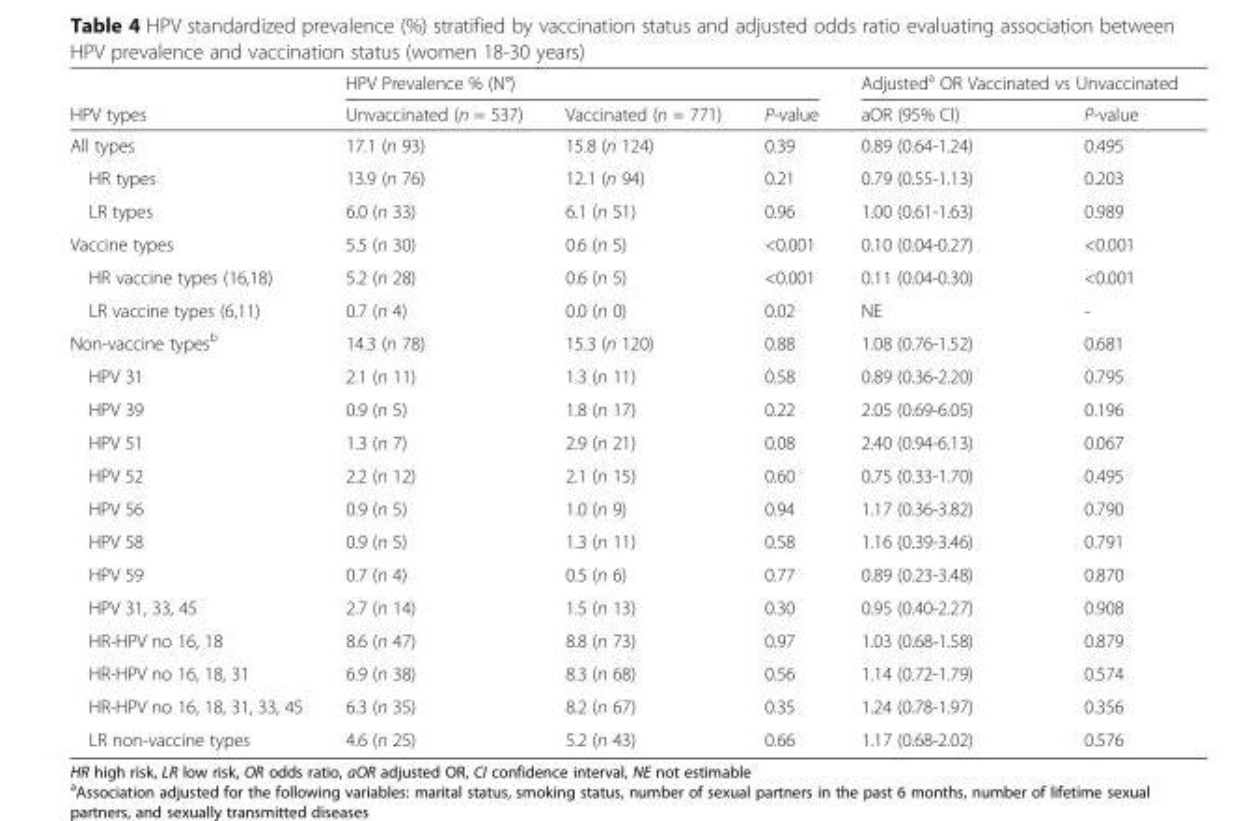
<table><thead><tr><td rowspan="2">HPV types</td><td colspan="3">HPV Prevalence % (N°)</td><td colspan="2">Adjusted<sup>a</sup> OR Vaccinated vs Unvaccinated</td></tr><tr><td>Unvaccinated (n = 537)</td><td>Vaccinated (n = 771)</td><td>P-value</td><td>aOR (95% CI)</td><td>P-value</td></tr></thead><tbody><tr><td>All types</td><td>17.1 (n 93)</td><td>15.8 (n 124)</td><td>0.39</td><td>0.89 (0.64-1.24)</td><td>0.495</td></tr><tr><td>HR types</td><td>13.9 (n 76)</td><td>12.1 (n 94)</td><td>0.21</td><td>0.79 (0.55-1.13)</td><td>0.203</td></tr><tr><td>LR types</td><td>6.0 (n 33)</td><td>6.1 (n 51)</td><td>0.96</td><td>1.00 (0.61-1.63)</td><td>0.989</td></tr><tr><td>Vaccine types</td><td>5.5 (n 30)</td><td>0.6 (n 5)</td><td>&lt;0.001</td><td>0.10 (0.04-0.27)</td><td>&lt;0.001</td></tr><tr><td>HR vaccine types (16,18)</td><td>5.2 (n 28)</td><td>0.6 (n 5)</td><td>&lt;0.001</td><td>0.11 (0.04-0.30)</td><td>&lt;0.001</td></tr><tr><td>LR vaccine types (6,11)</td><td>0.7 (n 4)</td><td>0.0 (n 0)</td><td>0.02</td><td>NE</td><td>-</td></tr><tr><td>Non-vaccine types<sup>b</sup></td><td>14.3 (n 78)</td><td>15.3 (n 120)</td><td>0.88</td><td>1.08 (0.76-1.52)</td><td>0.681</td></tr><tr><td>HPV 31</td><td>2.1 (n 11)</td><td>1.3 (n 11)</td><td>0.58</td><td>0.89 (0.36-2.20)</td><td>0.795</td></tr><tr><td>HPV 39</td><td>0.9 (n 5)</td><td>1.8 (n 17)</td><td>0.22</td><td>2.05 (0.69-6.05)</td><td>0.196</td></tr><tr><td>HPV 51</td><td>1.3 (n 7)</td><td>2.9 (n 21)</td><td>0.08</td><td>2.40 (0.94-6.13)</td><td>0.067</td></tr><tr><td>HPV 52</td><td>2.2 (n 12)</td><td>2.1 (n 15)</td><td>0.60</td><td>0.75 (0.33-1.70)</td><td>0.495</td></tr><tr><td>HPV 56</td><td>0.9 (n 5)</td><td>1.0 (n 9)</td><td>0.94</td><td>1.17 (0.36-3.82)</td><td>0.790</td></tr><tr><td>HPV 58</td><td>0.9 (n 5)</td><td>1.3 (n 11)</td><td>0.58</td><td>1.16 (0.39-3.46)</td><td>0.791</td></tr><tr><td>HPV 59</td><td>0.7 (n 4)</td><td>0.5 (n 6)</td><td>0.77</td><td>0.89 (0.23-3.48)</td><td>0.870</td></tr><tr><td>HPV 31, 33, 45</td><td>2.7 (n 14)</td><td>1.5 (n 13)</td><td>0.30</td><td>0.95 (0.40-2.27)</td><td>0.908</td></tr><tr><td>HR-HPV no 16, 18</td><td>8.6 (n 47)</td><td>8.8 (n 73)</td><td>0.97</td><td>1.03 (0.68-1.58)</td><td>0.879</td></tr><tr><td>HR-HPV no 16, 18, 31</td><td>6.9 (n 38)</td><td>8.3 (n 68)</td><td>0.56</td><td>1.14 (0.72-1.79)</td><td>0.574</td></tr><tr><td>HR-HPV no 16, 18, 31, 33, 45</td><td>6.3 (n 35)</td><td>8.2 (n 67)</td><td>0.35</td><td>1.24 (0.78-1.97)</td><td>0.356</td></tr><tr><td>LR non-vaccine types</td><td>4.6 (n 25)</td><td>5.2 (n 43)</td><td>0.66</td><td>1.17 (0.68-2.02)</td><td>0.576</td></tr></tbody></table>